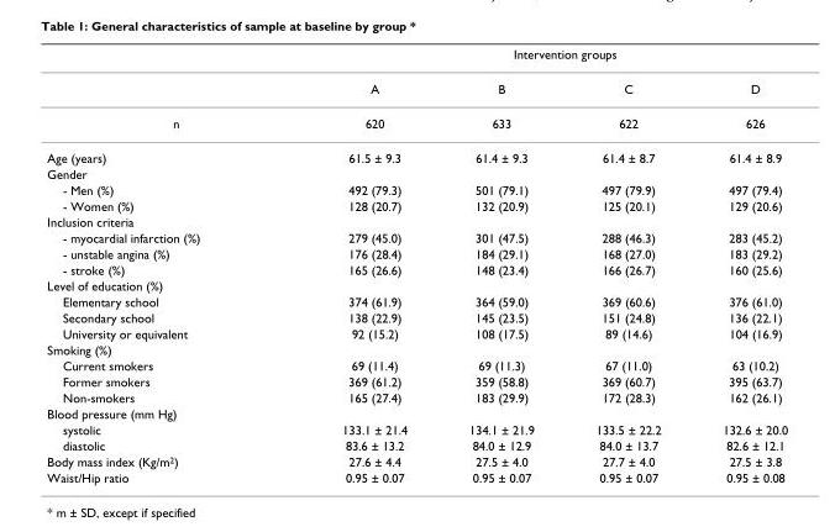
<table><thead><tr><td rowspan="2"></td><td colspan="4">Intervention groups</td></tr><tr><td>A</td><td>B</td><td>C</td><td>D</td></tr></thead><tbody><tr><td>n</td><td>620</td><td>633</td><td>622</td><td>626</td></tr><tr><td>Age (years)</td><td>61.5 ± 9.3</td><td>61.4 ± 9.3</td><td>61.4 ± 8.7</td><td>61.4 ± 8.9</td></tr><tr><td colspan="5">Gender</td></tr><tr><td>- Men (%)</td><td>492 (79.3)</td><td>501 (79.1)</td><td>497 (79.9)</td><td>497 (79.4)</td></tr><tr><td>- Women (%)</td><td>128 (20.7)</td><td>132 (20.9)</td><td>125 (20.1)</td><td>129 (20.6)</td></tr><tr><td colspan="5">Inclusion criteria</td></tr><tr><td>- myocardial infarction (%)</td><td>279 (45.0)</td><td>301 (47.5)</td><td>288 (46.3)</td><td>283 (45.2)</td></tr><tr><td>- unstable angina (%)</td><td>176 (28.4)</td><td>184 (29.1)</td><td>168 (27.0)</td><td>183 (29.2)</td></tr><tr><td>- stroke (%)</td><td>165 (26.6)</td><td>148 (23.4)</td><td>166 (26.7)</td><td>160 (25.6)</td></tr><tr><td colspan="5">Level of education (%)</td></tr><tr><td>Elementary school</td><td>374 (61.9)</td><td>364 (59.0)</td><td>369 (60.6)</td><td>376 (61.0)</td></tr><tr><td>Secondary school</td><td>138 (22.9)</td><td>145 (23.5)</td><td>151 (24.8)</td><td>136 (22.1)</td></tr><tr><td>University or equivalent</td><td>92 (15.2)</td><td>108 (17.5)</td><td>89 (14.6)</td><td>104 (16.9)</td></tr><tr><td colspan="5">Smoking (%)</td></tr><tr><td>Current smokers</td><td>69 (11.4)</td><td>69 (11.3)</td><td>67 (11.0)</td><td>63 (10.2)</td></tr><tr><td>Former smokers</td><td>369 (61.2)</td><td>359 (58.8)</td><td>369 (60.7)</td><td>395 (63.7)</td></tr><tr><td>Non-smokers</td><td>165 (27.4)</td><td>183 (29.9)</td><td>172 (28.3)</td><td>162 (26.1)</td></tr><tr><td colspan="5">Blood pressure (mm Hg)</td></tr><tr><td>systolic</td><td>133.1 ± 21.4</td><td>134.1 ± 21.9</td><td>133.5 ± 22.2</td><td>132.6 ± 20.0</td></tr><tr><td>diastolic</td><td>83.6 ± 13.2</td><td>84.0 ± 12.9</td><td>84.0 ± 13.7</td><td>82.6 ± 12.1</td></tr><tr><td>Body mass index (Kg/m<sup>2</sup>)</td><td>27.6 ± 4.4</td><td>27.5 ± 4.0</td><td>27.7 ± 4.0</td><td>27.5 ± 3.8</td></tr><tr><td>Waist/Hip ratio</td><td>0.95 ± 0.07</td><td>0.95 ± 0.07</td><td>0.95 ± 0.07</td><td>0.95 ± 0.08</td></tr></tbody></table>